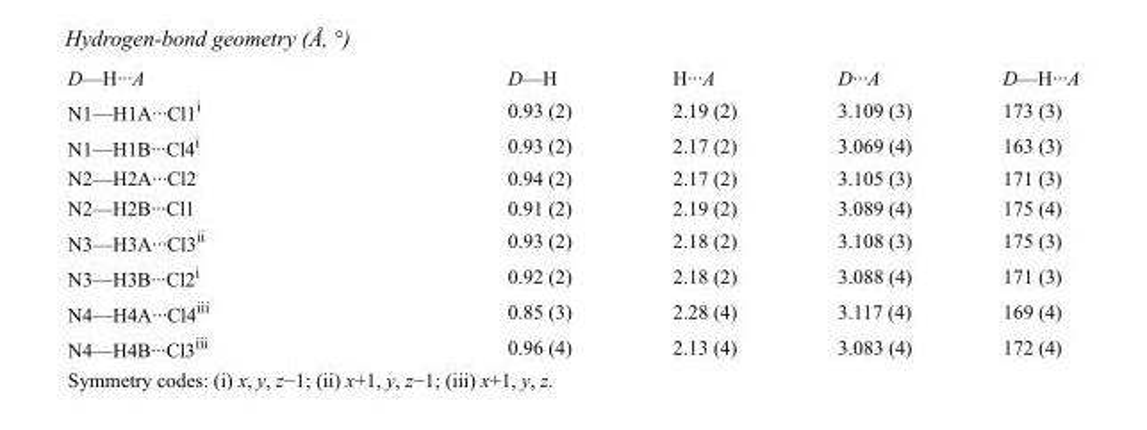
<table><tbody><tr><td>D—H···A</td><td>D—H</td><td>H···A</td><td>D···A</td><td>D—H···A</td></tr><tr><td>N1—H1A···Cl1<sup>i</sup></td><td>0.93 (2)</td><td>2.19 (2)</td><td>3.109 (3)</td><td>173 (3)</td></tr><tr><td>N1—H1B···Cl4<sup>i</sup></td><td>0.93 (2)</td><td>2.17 (2)</td><td>3.069 (4)</td><td>163 (3)</td></tr><tr><td>N2—H2A···Cl2</td><td>0.94 (2)</td><td>2.17 (2)</td><td>3.105 (3)</td><td>171 (3)</td></tr><tr><td>N2—H2B···Cl1</td><td>0.91 (2)</td><td>2.19 (2)</td><td>3.089 (4)</td><td>175 (4)</td></tr><tr><td>N3—H3A···Cl3<sup>ii</sup></td><td>0.93 (2)</td><td>2.18 (2)</td><td>3.108 (3)</td><td>175 (3)</td></tr><tr><td>N3—H3B···Cl2<sup>i</sup></td><td>0.92 (2)</td><td>2.18 (2)</td><td>3.088 (4)</td><td>171 (3)</td></tr><tr><td>N4—H4A···Cl4<sup>iii</sup></td><td>0.85 (3)</td><td>2.28 (4)</td><td>3.117 (4)</td><td>169 (4)</td></tr><tr><td>N4—H4B···Cl3<sup>iii</sup></td><td>0.96 (4)</td><td>2.13 (4)</td><td>3.083 (4)</td><td>172 (4)</td></tr></tbody></table>